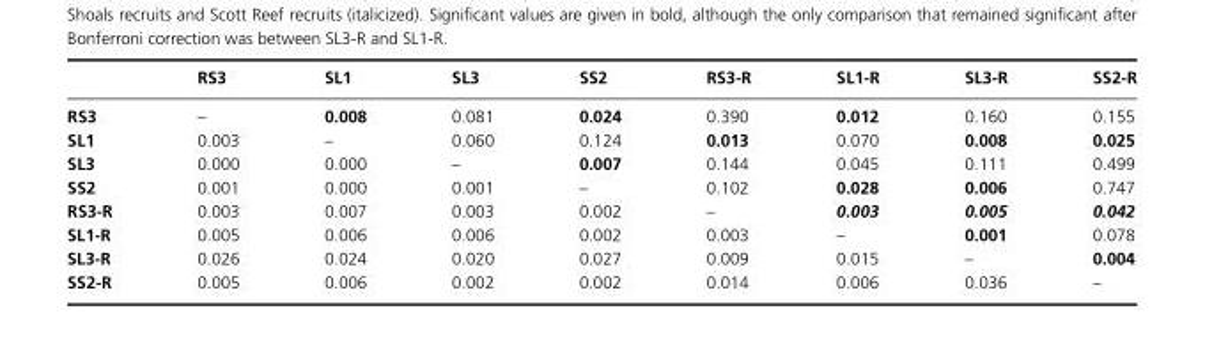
<table><thead><tr><td></td><td>RS3</td><td>SL1</td><td>SL3</td><td>SS2</td><td>RS3-R</td><td>SL1-R</td><td>SL3-R</td><td>SS2-R</td></tr></thead><tbody><tr><td>RS3</td><td>–</td><td>0.008</td><td>0.081</td><td>0.024</td><td>0.390</td><td>0.012</td><td>0.160</td><td>0.155</td></tr><tr><td>SL1</td><td>0.003</td><td>–</td><td>0.060</td><td>0.124</td><td>0.013</td><td>0.070</td><td>0.008</td><td>0.025</td></tr><tr><td>SL3</td><td>0.000</td><td>0.000</td><td>–</td><td>0.007</td><td>0.144</td><td>0.045</td><td>0.111</td><td>0.499</td></tr><tr><td>SS2</td><td>0.001</td><td>0.000</td><td>0.001</td><td>–</td><td>0.102</td><td>0.028</td><td>0.006</td><td>0.747</td></tr><tr><td>RS3-R</td><td>0.003</td><td>0.007</td><td>0.003</td><td>0.002</td><td>–</td><td>0.003</td><td>0.005</td><td>0.042</td></tr><tr><td>SL1-R</td><td>0.005</td><td>0.006</td><td>0.006</td><td>0.002</td><td>0.003</td><td>–</td><td>0.001</td><td>0.078</td></tr><tr><td>SL3-R</td><td>0.026</td><td>0.024</td><td>0.020</td><td>0.027</td><td>0.009</td><td>0.015</td><td>–</td><td>0.004</td></tr><tr><td>SS2-R</td><td>0.005</td><td>0.006</td><td>0.002</td><td>0.002</td><td>0.014</td><td>0.006</td><td>0.036</td><td>–</td></tr></tbody></table>